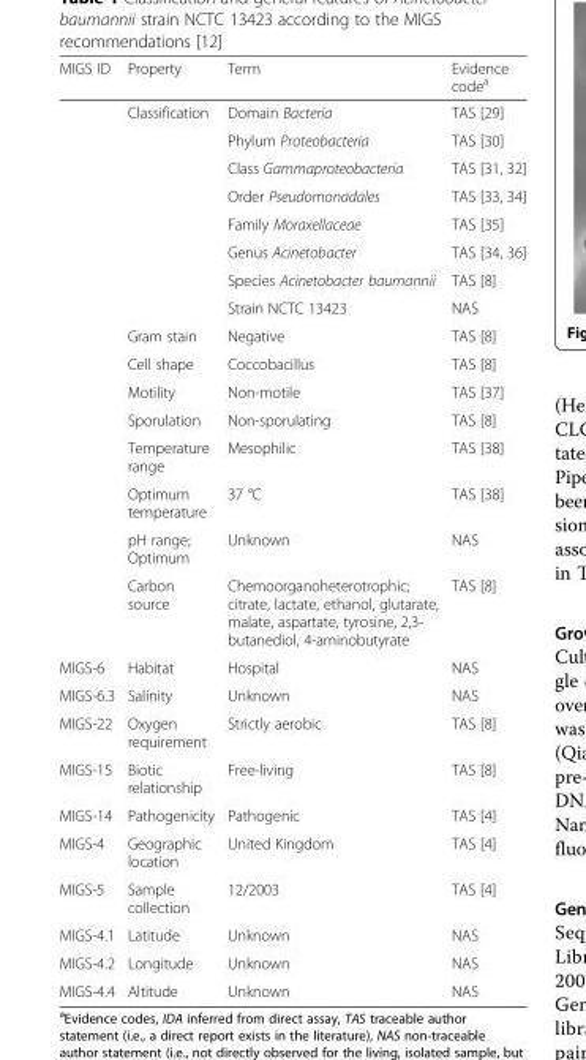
<table><thead><tr><td>MIGS ID</td><td>Property</td><td>Term</td><td>Evidence code<sup>a</sup></td></tr></thead><tbody><tr><td></td><td>Classification</td><td>Domain Bacteria</td><td>TAS [29]</td></tr><tr><td></td><td></td><td>Phylum Proteobacteria</td><td>TAS [30]</td></tr><tr><td></td><td></td><td>Class Gammaproteobacteria</td><td>TAS [31, 32]</td></tr><tr><td></td><td></td><td>Order Pseudomonadales</td><td>TAS [33, 34]</td></tr><tr><td></td><td></td><td>Family Moraxellaceae</td><td>TAS [35]</td></tr><tr><td></td><td></td><td>Genus Acinetobacter</td><td>TAS [34, 36]</td></tr><tr><td></td><td></td><td>Species Acinetobacter baumannii</td><td>TAS [8]</td></tr><tr><td></td><td></td><td>Strain NCTC 13423</td><td>NAS</td></tr><tr><td></td><td>Gram stain</td><td>Negative</td><td>TAS [8]</td></tr><tr><td></td><td>Cell shape</td><td>Coccobacillus</td><td>TAS [8]</td></tr><tr><td></td><td>Motility</td><td>Non-motile</td><td>TAS [37]</td></tr><tr><td></td><td>Sporulation</td><td>Non-sporulating</td><td>TAS [8]</td></tr><tr><td></td><td>Temperature range</td><td>Mesophilic</td><td>TAS [38]</td></tr><tr><td></td><td>Optimum temperature</td><td>37 °C</td><td>TAS [38]</td></tr><tr><td></td><td>pH range; Optimum</td><td>Unknown</td><td>NAS</td></tr><tr><td></td><td>Carbon source</td><td>Chemoorganoheterotrophic; citrate, lactate, ethanol, glutarate, malate, aspartate, tyrosine, 2,3- butanediol, 4-aminobutyrate</td><td>TAS [8]</td></tr><tr><td>MIGS-6</td><td>Habitat</td><td>Hospital</td><td>NAS</td></tr><tr><td>MIGS-6.3</td><td>Salinity</td><td>Unknown</td><td>NAS</td></tr><tr><td>MIGS-22</td><td>Oxygen requirement</td><td>Strictly aerobic</td><td>TAS [8]</td></tr><tr><td>MIGS-15</td><td>Biotic relationship</td><td>Free-living</td><td>TAS [8]</td></tr><tr><td>MIGS-14</td><td>Pathogenicity</td><td>Pathogenic</td><td>TAS [4]</td></tr><tr><td>MIGS-4</td><td>Geographic location</td><td>United Kingdom</td><td>TAS [4]</td></tr><tr><td>MIGS-5</td><td>Sample collection</td><td>12/2003</td><td>TAS [4]</td></tr><tr><td>MIGS-4.1</td><td>Latitude</td><td>Unknown</td><td>NAS</td></tr><tr><td>MIGS-4.2</td><td>Longitude</td><td>Unknown</td><td>NAS</td></tr><tr><td>MIGS-4.4</td><td>Altitude</td><td>Unknown</td><td>NAS</td></tr></tbody></table>